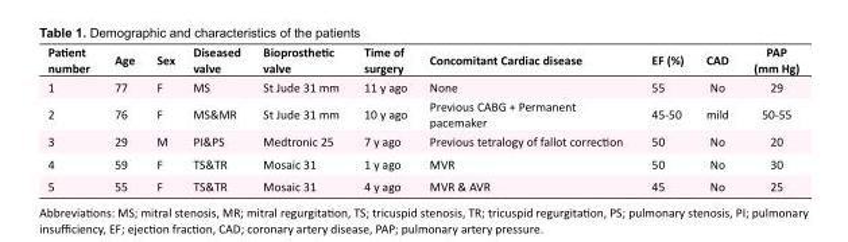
<table><tbody><tr><td>Patient number</td><td>Age</td><td>Sex</td><td>Diseased valve</td><td>Bioprosthetic valve</td><td>Time of surgery</td><td>Concomitant Cardiac disease</td><td>EF (%)</td><td>CAD</td><td>PAP (mm Hg)</td></tr><tr><td>1</td><td>77</td><td>F</td><td>MS</td><td>St Jude 31 mm</td><td>11 y ago</td><td>None</td><td>55</td><td>No</td><td>29</td></tr><tr><td>2</td><td>76</td><td>F</td><td>MS&amp;MR</td><td>St Jude 31 mm</td><td>10 y ago</td><td>Previous CABG + Permanent pacemaker</td><td>45-50</td><td>mild</td><td>50-55</td></tr><tr><td>3</td><td>29</td><td>M</td><td>PI&amp;PS</td><td>Medtronic 25</td><td>7 y ago</td><td>Previous tetralogy of fallot correction</td><td>50</td><td>No</td><td>20</td></tr><tr><td>4</td><td>59</td><td>F</td><td>TS&amp;TR</td><td>Mosaic 31</td><td>1 y ago</td><td>MVR</td><td>50</td><td>No</td><td>30</td></tr><tr><td>5</td><td>55</td><td>F</td><td>TS&amp;TR</td><td>Mosaic 31</td><td>4 y ago</td><td>MVR &amp; AVR</td><td>45</td><td>No</td><td>25</td></tr></tbody></table>